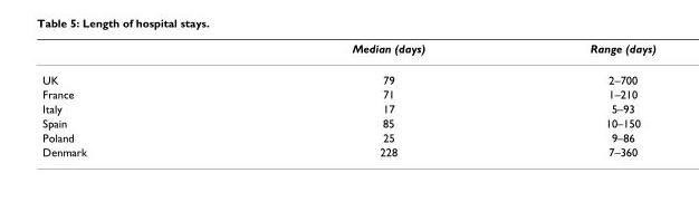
<table><thead><tr><td></td><td>Median (days)</td><td>Range (days)</td></tr></thead><tbody><tr><td>UK</td><td>79</td><td>2–700</td></tr><tr><td>France</td><td>71</td><td>1–210</td></tr><tr><td>Italy</td><td>17</td><td>5–93</td></tr><tr><td>Spain</td><td>85</td><td>10–150</td></tr><tr><td>Poland</td><td>25</td><td>9–86</td></tr><tr><td>Denmark</td><td>228</td><td>7–360</td></tr></tbody></table>